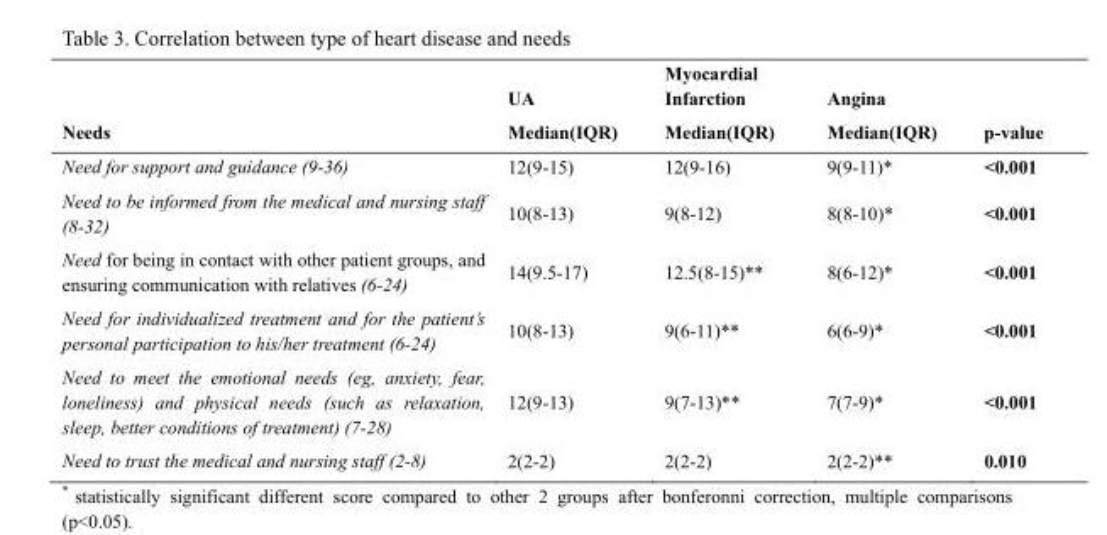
<table><thead><tr><td>Needs</td><td>UA Median(IQR)</td><td>Myocardial Infarction Median(IQR)</td><td>Angina Median(IQR)</td><td>p-value</td></tr></thead><tbody><tr><td>Need for support and guidance (9-36)</td><td>12(9-15)</td><td>12(9-16)</td><td>9(9-11)*</td><td>&lt;0.001</td></tr><tr><td>Need to be informed from the medical and nursing staff (8-32)</td><td>10(8-13)</td><td>9(8-12)</td><td>8(8-10)*</td><td>&lt;0.001</td></tr><tr><td>Need for being in contact with other patient groups, and ensuring communication with relatives (6-24)</td><td>14(9.5-17)</td><td>12.5(8-15)**</td><td>8(6-12)*</td><td>&lt;0.001</td></tr><tr><td>Need for individualized treatment and for the patient’s personal participation to his/her treatment (6-24)</td><td>10(8-13)</td><td>9(6-11)**</td><td>6(6-9)*</td><td>&lt;0.001</td></tr><tr><td>Need to meet the emotional needs (eg, anxiety, fear, loneliness) and physical needs (such as relaxation, sleep, better conditions of treatment) (7-28)</td><td>12(9-13)</td><td>9(7-13)**</td><td>7(7-9)*</td><td>&lt;0.001</td></tr><tr><td>Need to trust the medical and nursing staff (2-8)</td><td>2(2-2)</td><td>2(2-2)</td><td>2(2-2)**</td><td>0.010</td></tr></tbody></table>